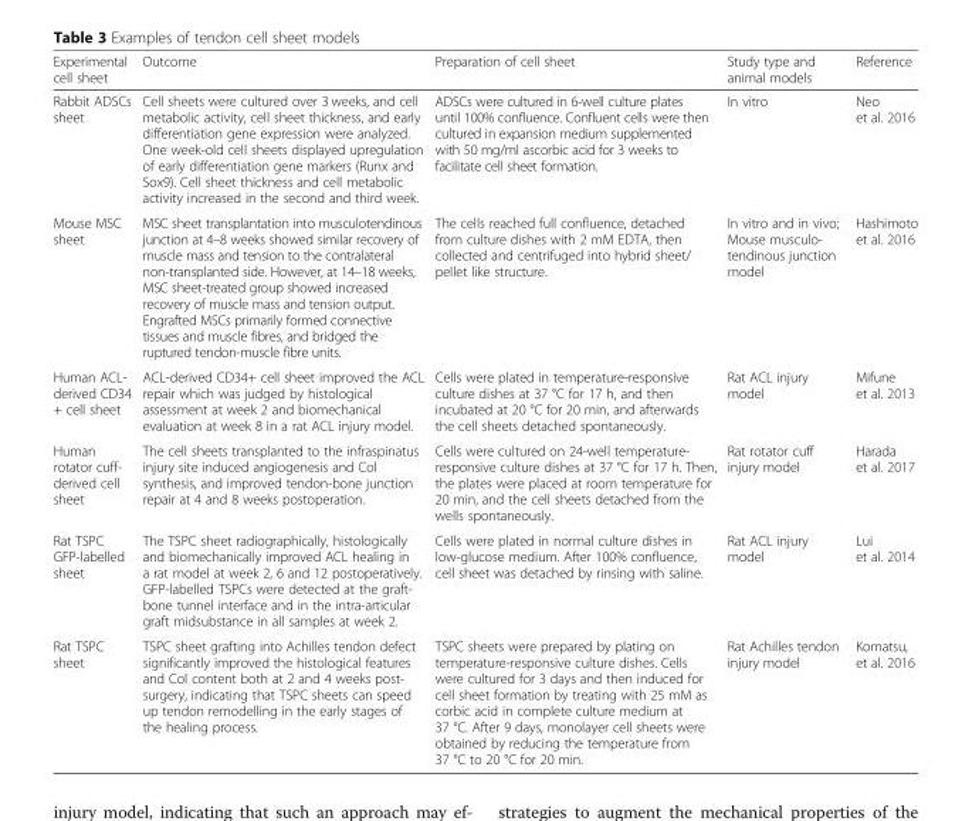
<table><thead><tr><td>Experimental cell sheet</td><td>Outcome</td><td>Preparation of cell sheet</td><td>Study type and animal models</td><td>Reference</td></tr></thead><tbody><tr><td>Rabbit ADSCs sheet</td><td>Cell sheets were cultured over 3 weeks, and cell metabolic activity, cell sheet thickness, and early differentiation gene expression were analyzed. One week-old cell sheets displayed upregulation of early differentiation gene markers (Runx and Sox9). Cell sheet thickness and cell metabolic activity increased in the second and third week.</td><td>ADSCs were cultured in 6-well culture plates until 100% confluence. Confluent cells were then cultured in expansion medium supplemented with 50 mg/ml ascorbic acid for 3 weeks to facilitate cell sheet formation.</td><td>In vitro</td><td>Neo et al. 2016</td></tr><tr><td>Mouse MSC sheet</td><td>MSC sheet transplantation into musculotendinous junction at 4–8 weeks showed similar recovery of muscle mass and tension to the contralateral non-transplanted side. However, at 14–18 weeks, MSC sheet-treated group showed increased recovery of muscle mass and tension output. Engrafted MSCs primarily formed connective tissues and muscle fibres, and bridged the ruptured tendon-muscle fibre units.</td><td>The cells reached full confluence, detached from culture dishes with 2 mM EDTA, then collected and centrifuged into hybrid sheet/ pellet like structure.</td><td>In vitro and in vivo; Mouse musculo- tendinous junction model</td><td>Hashimoto et al. 2016</td></tr><tr><td>Human ACL- derived CD34 + cell sheet</td><td>ACL-derived CD34+ cell sheet improved the ACL repair which was judged by histological assessment at week 2 and biomechanical evaluation at week 8 in a rat ACL injury model.</td><td>Cells were plated in temperature-responsive culture dishes at 37 °C for 17 h, and then incubated at 20 °C for 20 min, and afterwards the cell sheets detached spontaneously.</td><td>Rat ACL injury model</td><td>Mifune et al. 2013</td></tr><tr><td>Human rotator cuff- derived cell sheet</td><td>The cell sheets transplanted to the infraspinatus injury site induced angiogenesis and Col synthesis, and improved tendon-bone junction repair at 4 and 8 weeks postoperation.</td><td>Cells were cultured on 24-well temperature- responsive culture dishes at 37 °C for 17 h. Then, the plates were placed at room temperature for 20 min, and the cell sheets detached from the wells spontaneously.</td><td>Rat rotator cuff injury model</td><td>Harada et al. 2017</td></tr><tr><td>Rat TSPC GFP-labelled sheet</td><td>The TSPC sheet radiographically, histologically and biomechanically improved ACL healing in a rat model at week 2, 6 and 12 postoperatively. GFP-labelled TSPCs were detected at the graft- bone tunnel interface and in the intra-articular graft midsubstance in all samples at week 2.</td><td>Cells were plated in normal culture dishes in low-glucose medium. After 100% confluence, cell sheet was detached by rinsing with saline.</td><td>Rat ACL injury model</td><td>Lui et al. 2014</td></tr><tr><td>Rat TSPC sheet</td><td>TSPC sheet grafting into Achilles tendon defect significantly improved the histological features and Col content both at 2 and 4 weeks post- surgery, indicating that TSPC sheets can speed up tendon remodelling in the early stages of the healing process.</td><td>TSPC sheets were prepared by plating on temperature-responsive culture dishes. Cells were cultured for 3 days and then induced for cell sheet formation by treating with 25 mM as corbic acid in complete culture medium at 37 °C. After 9 days, monolayer cell sheets were obtained by reducing the temperature from 37 °C to 20 °C for 20 min.</td><td>Rat Achilles tendon injury model</td><td>Komatsu, et al. 2016</td></tr></tbody></table>